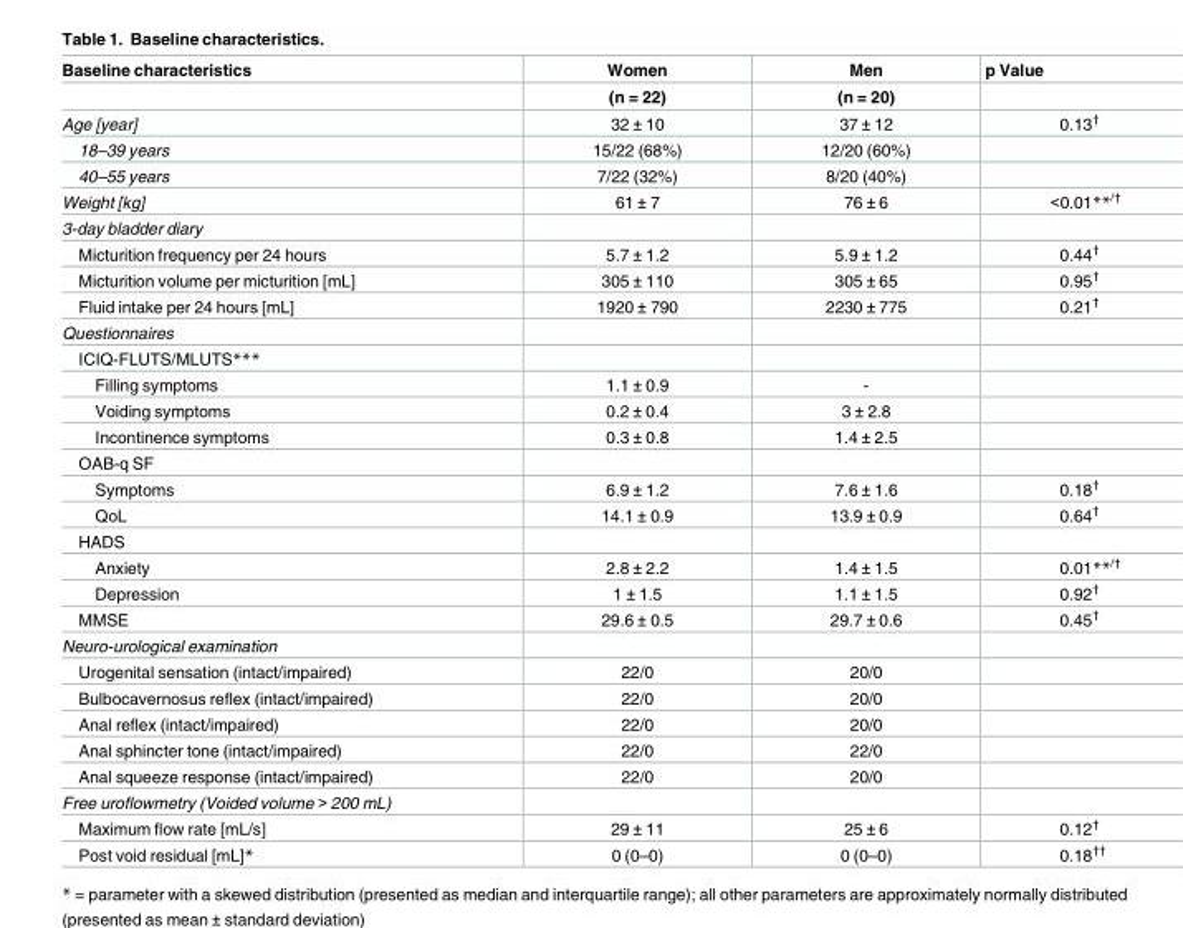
<table><thead><tr><td rowspan="2">Baseline characteristics</td><td rowspan="2">Women (n = 22)</td><td rowspan="2">Men (n = 20)</td><td rowspan="2">p Value</td></tr><tr></tr></thead><tbody><tr><td>Age [year]</td><td>32 ± 10</td><td>37 ± 12</td><td>0.13<sup>†</sup></td></tr><tr><td>18–39 years</td><td>15/22 (68%)</td><td>12/20 (60%)</td><td></td></tr><tr><td>40–55 years</td><td>7/22 (32%)</td><td>8/20 (40%)</td><td></td></tr><tr><td>Weight [kg]</td><td>61 ± 7</td><td>76 ± 6</td><td>&lt;0.01**<sup>/†</sup></td></tr><tr><td colspan="4">3-day bladder diary</td></tr><tr><td>Micturition frequency per 24 hours</td><td>5.7 ± 1.2</td><td>5.9 ± 1.2</td><td>0.44<sup>†</sup></td></tr><tr><td>Micturition volume per micturition [mL]</td><td>305 ± 110</td><td>305 ± 65</td><td>0.95<sup>†</sup></td></tr><tr><td>Fluid intake per 24 hours [mL]</td><td>1920 ± 790</td><td>2230 ± 775</td><td>0.21<sup>†</sup></td></tr><tr><td colspan="4">Questionnaires</td></tr><tr><td colspan="4">ICIQ-FLUTS/MLUTS***</td></tr><tr><td>Filling symptoms</td><td>1.1 ± 0.9</td><td>-</td><td></td></tr><tr><td>Voiding symptoms</td><td>0.2 ± 0.4</td><td>3 ± 2.8</td><td></td></tr><tr><td>Incontinence symptoms</td><td>0.3 ± 0.8</td><td>1.4 ± 2.5</td><td></td></tr><tr><td colspan="4">OAB-q SF</td></tr><tr><td>Symptoms</td><td>6.9 ± 1.2</td><td>7.6 ± 1.6</td><td>0.18<sup>†</sup></td></tr><tr><td>QoL</td><td>14.1 ± 0.9</td><td>13.9 ± 0.9</td><td>0.64<sup>†</sup></td></tr><tr><td colspan="4">HADS</td></tr><tr><td>Anxiety</td><td>2.8 ± 2.2</td><td>1.4 ± 1.5</td><td>0.01**<sup>/†</sup></td></tr><tr><td>Depression</td><td>1 ± 1.5</td><td>1.1 ± 1.5</td><td>0.92<sup>†</sup></td></tr><tr><td>MMSE</td><td>29.6 ± 0.5</td><td>29.7 ± 0.6</td><td>0.45<sup>†</sup></td></tr><tr><td colspan="4">Neuro-urological examination</td></tr><tr><td>Urogenital sensation (intact/impaired)</td><td>22/0</td><td>20/0</td><td></td></tr><tr><td>Bulbocavernosus reflex (intact/impaired)</td><td>22/0</td><td>20/0</td><td></td></tr><tr><td>Anal reflex (intact/impaired)</td><td>22/0</td><td>20/0</td><td></td></tr><tr><td>Anal sphincter tone (intact/impaired)</td><td>22/0</td><td>22/0</td><td></td></tr><tr><td>Anal squeeze response (intact/impaired)</td><td>22/0</td><td>20/0</td><td></td></tr><tr><td colspan="4">Free uroflowmetry (Voided volume &gt; 200 mL)</td></tr><tr><td>Maximum flow rate [mL/s]</td><td>29 ± 11</td><td>25 ± 6</td><td>0.12<sup>†</sup></td></tr><tr><td>Post void residual [mL]*</td><td>0 (0–0)</td><td>0 (0–0)</td><td>0.18<sup>††</sup></td></tr></tbody></table>